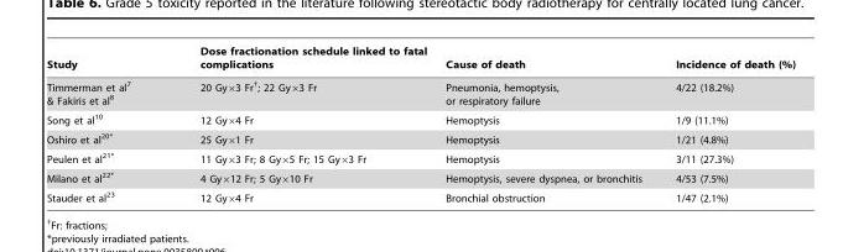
<table><thead><tr><td>Study</td><td>Dose fractionation schedule linked to fatal complications</td><td>Cause of death</td><td>Incidence of death (%)</td></tr></thead><tbody><tr><td>Timmerman et al<sup>7</sup> &amp; Fakiris et al<sup>8</sup></td><td>20 Gy×3 Fr†; 22 Gy×3 Fr</td><td>Pneumonia, hemoptysis, or respiratory failure</td><td>4/22 (18.2%)</td></tr><tr><td>Song et al<sup>10</sup></td><td>12 Gy×4 Fr</td><td>Hemoptysis</td><td>1/9 (11.1%)</td></tr><tr><td>Oshiro et al<sup>20</sup>*</td><td>25 Gy×1 Fr</td><td>Hemoptysis</td><td>1/21 (4.8%)</td></tr><tr><td>Peulen et al<sup>21</sup>*</td><td>11 Gy×3 Fr; 8 Gy×5 Fr; 15 Gy×3 Fr</td><td>Hemoptysis</td><td>3/11 (27.3%)</td></tr><tr><td>Milano et al<sup>22</sup>*</td><td>4 Gy×12 Fr; 5 Gy×10 Fr</td><td>Hemoptysis, severe dyspnea, or bronchitis</td><td>4/53 (7.5%)</td></tr><tr><td>Stauder et al<sup>23</sup></td><td>12 Gy×4 Fr</td><td>Bronchial obstruction</td><td>1/47 (2.1%)</td></tr></tbody></table>